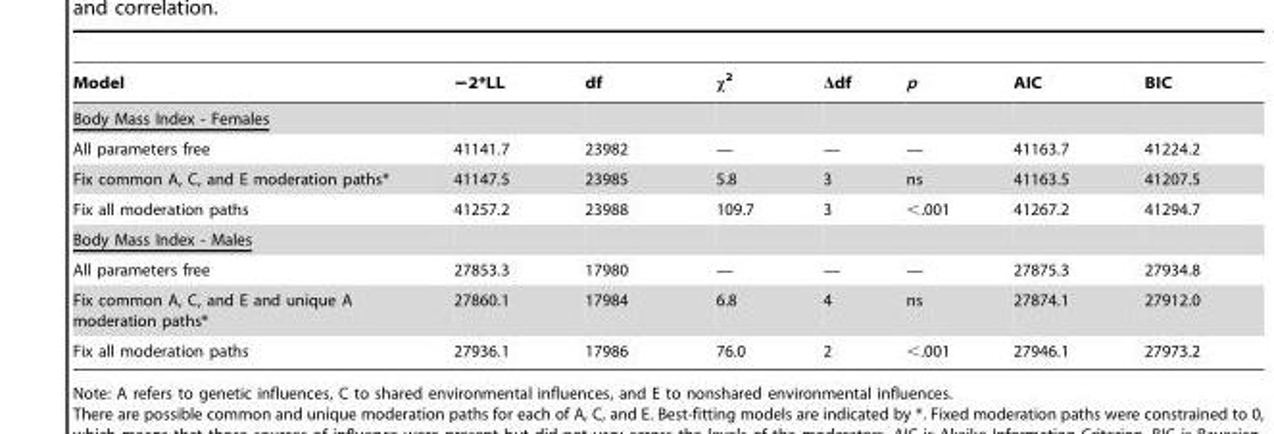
<table><thead><tr><td>Model</td><td>−2*LL</td><td>df</td><td>χ<sup>2</sup></td><td>Δdf</td><td>p</td><td>AIC</td><td>BIC</td></tr></thead><tbody><tr><td colspan="8">Body Mass Index - Females</td></tr><tr><td>All parameters free</td><td>41141.7</td><td>23982</td><td>—</td><td>—</td><td>—</td><td>41163.7</td><td>41224.2</td></tr><tr><td>Fix common A, C, and E moderation paths*</td><td>41147.5</td><td>23985</td><td>5.8</td><td>3</td><td>ns</td><td>41163.5</td><td>41207.5</td></tr><tr><td>Fix all moderation paths</td><td>41257.2</td><td>23988</td><td>109.7</td><td>3</td><td>&lt;.001</td><td>41267.2</td><td>41294.7</td></tr><tr><td colspan="8">Body Mass Index - Males</td></tr><tr><td>All parameters free</td><td>27853.3</td><td>17980</td><td>—</td><td>—</td><td>—</td><td>27875.3</td><td>27934.8</td></tr><tr><td>Fix common A, C, and E and unique A moderation paths*</td><td>27860.1</td><td>17984</td><td>6.8</td><td>4</td><td>ns</td><td>27874.1</td><td>27912.0</td></tr><tr><td>Fix all moderation paths</td><td>27936.1</td><td>17986</td><td>76.0</td><td>2</td><td>&lt;.001</td><td>27946.1</td><td>27973.2</td></tr></tbody></table>